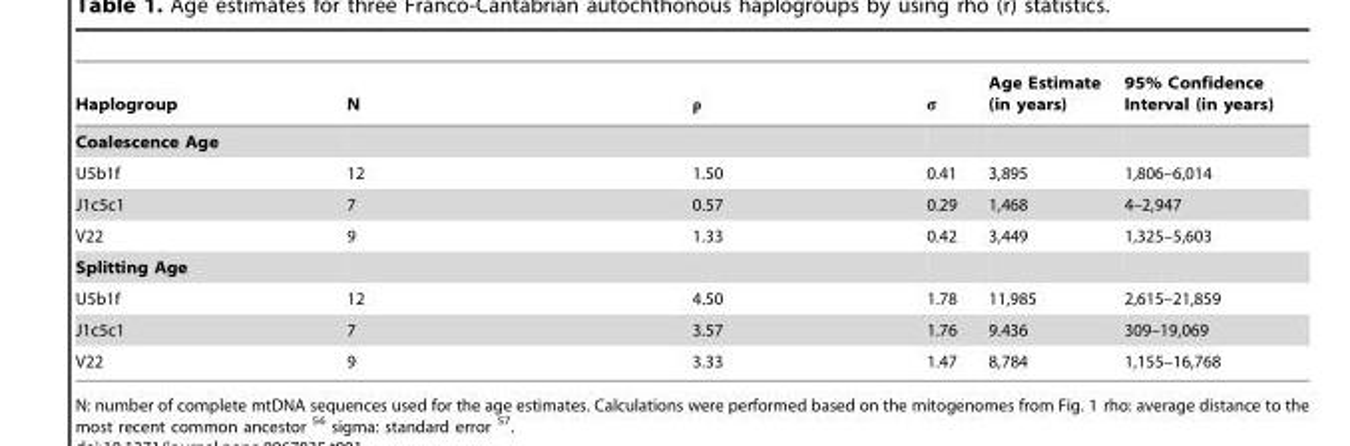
<table><thead><tr><td>Haplogroup</td><td>N</td><td>ρ</td><td>σ</td><td>Age Estimate (in years)</td><td>95% Confidence Interval (in years)</td></tr></thead><tbody><tr><td colspan="6">Coalescence Age</td></tr><tr><td>U5b1f</td><td>12</td><td>1.50</td><td>0.41</td><td>3,895</td><td>1,806–6,014</td></tr><tr><td>J1c5c1</td><td>7</td><td>0.57</td><td>0.29</td><td>1,468</td><td>4–2,947</td></tr><tr><td>V22</td><td>9</td><td>1.33</td><td>0.42</td><td>3,449</td><td>1,325–5,603</td></tr><tr><td colspan="6">Splitting Age</td></tr><tr><td>U5b1f</td><td>12</td><td>4.50</td><td>1.78</td><td>11,985</td><td>2,615–21,859</td></tr><tr><td>J1c5c1</td><td>7</td><td>3.57</td><td>1.76</td><td>9.436</td><td>309–19,069</td></tr><tr><td>V22</td><td>9</td><td>3.33</td><td>1.47</td><td>8,784</td><td>1,155–16,768</td></tr></tbody></table>